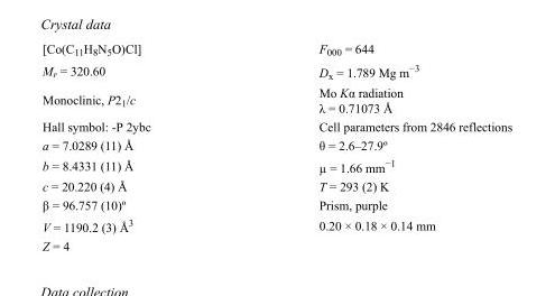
<table><tbody><tr><td>[Co(C<sub>11</sub>H<sub>8</sub>N<sub>5</sub>O)Cl]</td><td>F<sub>000</sub> = 644</td></tr><tr><td>M<sub>r</sub> = 320.60</td><td>D<sub>x</sub> = 1.789 Mg m<sup>−3</sup></td></tr><tr><td>Monoclinic, P2<sub>1</sub>/c</td><td>Mo Kα radiation λ = 0.71073 Å</td></tr><tr><td>Hall symbol: -P 2ybc</td><td>Cell parameters from 2846 reflections</td></tr><tr><td>a = 7.0289 (11) Å</td><td>θ = 2.6–27.9º</td></tr><tr><td>b = 8.4331 (11) Å</td><td>µ = 1.66 mm<sup>−1</sup></td></tr><tr><td>c = 20.220 (4) Å</td><td>T = 293 (2) K</td></tr><tr><td>β = 96.757 (10)º</td><td>Prism, purple</td></tr><tr><td>V = 1190.2 (3) Å<sup>3</sup></td><td>0.20 × 0.18 × 0.14 mm</td></tr><tr><td>Z = 4</td><td></td></tr></tbody></table>